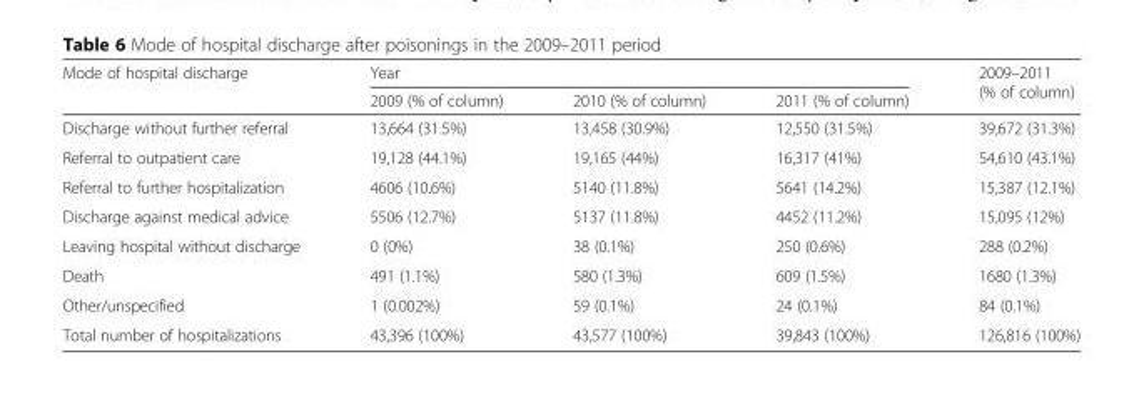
<table><thead><tr><td rowspan="2">Mode of hospital discharge</td><td colspan="3">Year</td><td rowspan="2">2009–2011 (% of column)</td></tr><tr><td>2009 (% of column)</td><td>2010 (% of column)</td><td>2011 (% of column)</td></tr></thead><tbody><tr><td>Discharge without further referral</td><td>13,664 (31.5%)</td><td>13,458 (30.9%)</td><td>12,550 (31.5%)</td><td>39,672 (31.3%)</td></tr><tr><td>Referral to outpatient care</td><td>19,128 (44.1%)</td><td>19,165 (44%)</td><td>16,317 (41%)</td><td>54,610 (43.1%)</td></tr><tr><td>Referral to further hospitalization</td><td>4606 (10.6%)</td><td>5140 (11.8%)</td><td>5641 (14.2%)</td><td>15,387 (12.1%)</td></tr><tr><td>Discharge against medical advice</td><td>5506 (12.7%)</td><td>5137 (11.8%)</td><td>4452 (11.2%)</td><td>15,095 (12%)</td></tr><tr><td>Leaving hospital without discharge</td><td>0 (0%)</td><td>38 (0.1%)</td><td>250 (0.6%)</td><td>288 (0.2%)</td></tr><tr><td>Death</td><td>491 (1.1%)</td><td>580 (1.3%)</td><td>609 (1.5%)</td><td>1680 (1.3%)</td></tr><tr><td>Other/unspecified</td><td>1 (0.002%)</td><td>59 (0.1%)</td><td>24 (0.1%)</td><td>84 (0.1%)</td></tr><tr><td>Total number of hospitalizations</td><td>43,396 (100%)</td><td>43,577 (100%)</td><td>39,843 (100%)</td><td>126,816 (100%)</td></tr></tbody></table>